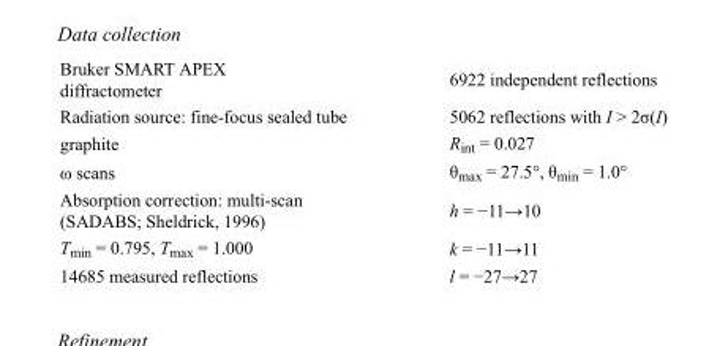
<table><tbody><tr><td>Bruker SMART APEX diffractometer</td><td>6922 independent reflections</td></tr><tr><td>Radiation source: fine-focus sealed tube</td><td>5062 reflections with I &gt; 2σ(I)</td></tr><tr><td>graphite</td><td>R<sub>int</sub> = 0.027</td></tr><tr><td>ω scans</td><td>θ<sub>max</sub> = 27.5°, θ<sub>min</sub> = 1.0°</td></tr><tr><td>Absorption correction: multi-scan (SADABS; Sheldrick, 1996)</td><td>h = −11→10</td></tr><tr><td>T<sub>min</sub> = 0.795, T<sub>max</sub> = 1.000</td><td>k = −11→11</td></tr><tr><td>14685 measured reflections</td><td>l = −27→27</td></tr></tbody></table>